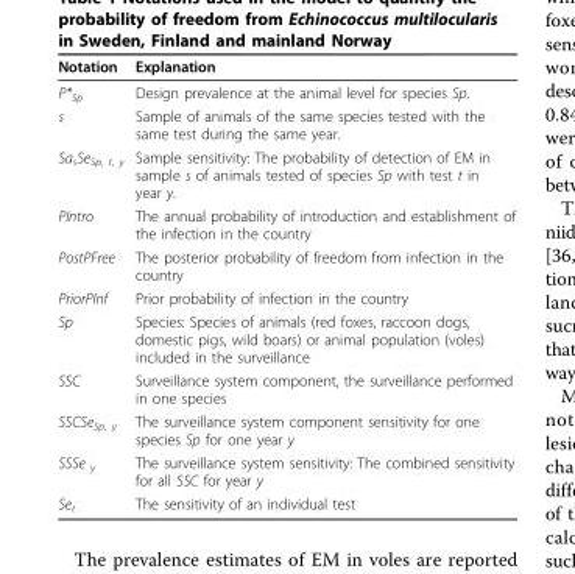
<table><thead><tr><td>Notation</td><td>Explanation</td></tr></thead><tbody><tr><td>P*<sub>Sp</sub></td><td>Design prevalence at the animal level for species Sp.</td></tr><tr><td>s</td><td>Sample of animals of the same species tested with the same test during the same year.</td></tr><tr><td>Sa<sub>s</sub>Se<sub>Sp, t, y</sub></td><td>Sample sensitivity: The probability of detection of EM in sample s of animals tested of species Sp with test t in year y.</td></tr><tr><td>PIntro</td><td>The annual probability of introduction and establishment of the infection in the country</td></tr><tr><td>PostPFree</td><td>The posterior probability of freedom from infection in the country</td></tr><tr><td>PriorPInf</td><td>Prior probability of infection in the country</td></tr><tr><td>Sp</td><td>Species: Species of animals (red foxes, raccoon dogs, domestic pigs, wild boars) or animal population (voles) included in the surveillance</td></tr><tr><td>SSC</td><td>Surveillance system component, the surveillance performed in one species</td></tr><tr><td>SSCSe<sub>Sp, y</sub></td><td>The surveillance system component sensitivity for one species Sp for one year y</td></tr><tr><td>SSSe <sub>y</sub></td><td>The surveillance system sensitivity: The combined sensitivity for all SSC for year y</td></tr><tr><td>Se<sub>t</sub></td><td>The sensitivity of an individual test</td></tr></tbody></table>